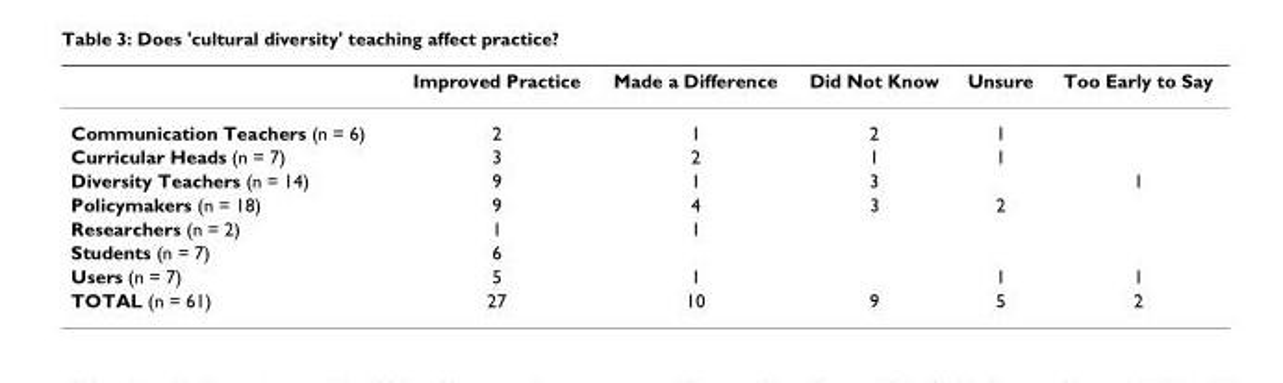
<table><thead><tr><td></td><td>Improved Practice</td><td>Made a Difference</td><td>Did Not Know</td><td>Unsure</td><td>Too Early to Say</td></tr></thead><tbody><tr><td>Communication Teachers (n = 6)</td><td>2</td><td>1</td><td>2</td><td>1</td><td></td></tr><tr><td>Curricular Heads (n = 7)</td><td>3</td><td>2</td><td>1</td><td>1</td><td></td></tr><tr><td>Diversity Teachers (n = 14)</td><td>9</td><td>1</td><td>3</td><td></td><td>1</td></tr><tr><td>Policymakers (n = 18)</td><td>9</td><td>4</td><td>3</td><td>2</td><td></td></tr><tr><td>Researchers (n = 2)</td><td>1</td><td>1</td><td></td><td></td><td></td></tr><tr><td>Students (n = 7)</td><td>6</td><td></td><td></td><td></td><td></td></tr><tr><td>Users (n = 7)</td><td>5</td><td>1</td><td></td><td>1</td><td>1</td></tr><tr><td>TOTAL (n = 61)</td><td>27</td><td>10</td><td>9</td><td>5</td><td>2</td></tr></tbody></table>